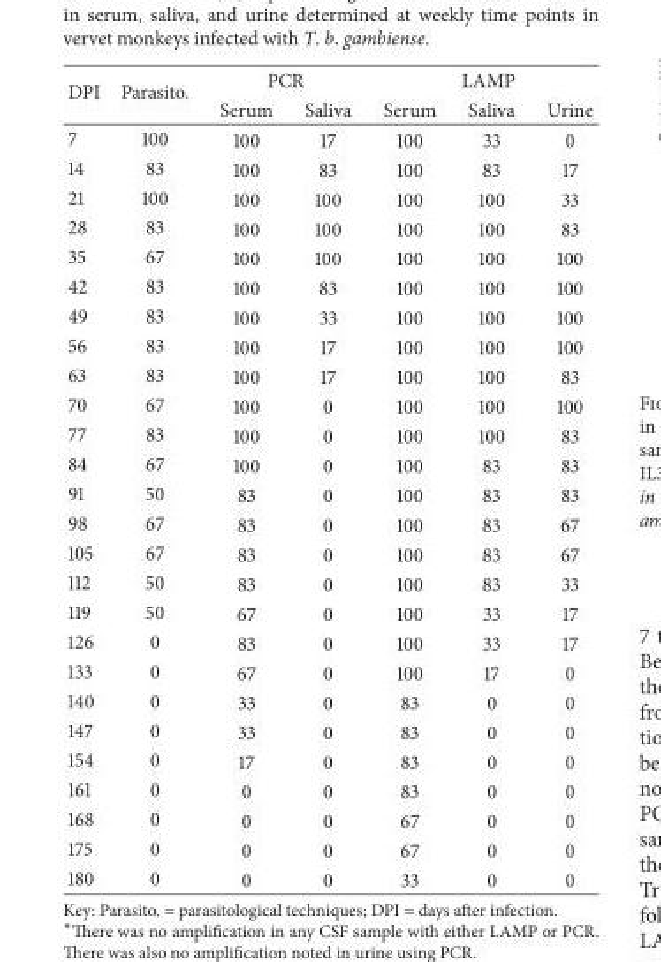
<table><thead><tr><td rowspan="2">DPI</td><td rowspan="2">Parasito.</td><td colspan="2">PCR</td><td colspan="3">LAMP</td></tr><tr><td>Serum</td><td>Saliva</td><td>Serum</td><td>Saliva</td><td>Urine</td></tr></thead><tbody><tr><td>7</td><td>100</td><td>100</td><td>17</td><td>100</td><td>33</td><td>0</td></tr><tr><td>14</td><td>83</td><td>100</td><td>83</td><td>100</td><td>83</td><td>17</td></tr><tr><td>21</td><td>100</td><td>100</td><td>100</td><td>100</td><td>100</td><td>33</td></tr><tr><td>28</td><td>83</td><td>100</td><td>100</td><td>100</td><td>100</td><td>83</td></tr><tr><td>35</td><td>67</td><td>100</td><td>100</td><td>100</td><td>100</td><td>100</td></tr><tr><td>42</td><td>83</td><td>100</td><td>83</td><td>100</td><td>100</td><td>100</td></tr><tr><td>49</td><td>83</td><td>100</td><td>33</td><td>100</td><td>100</td><td>100</td></tr><tr><td>56</td><td>83</td><td>100</td><td>17</td><td>100</td><td>100</td><td>100</td></tr><tr><td>63</td><td>83</td><td>100</td><td>17</td><td>100</td><td>100</td><td>83</td></tr><tr><td>70</td><td>67</td><td>100</td><td>0</td><td>100</td><td>100</td><td>100</td></tr><tr><td>77</td><td>83</td><td>100</td><td>0</td><td>100</td><td>100</td><td>83</td></tr><tr><td>84</td><td>67</td><td>100</td><td>0</td><td>100</td><td>83</td><td>83</td></tr><tr><td>91</td><td>50</td><td>83</td><td>0</td><td>100</td><td>83</td><td>83</td></tr><tr><td>98</td><td>67</td><td>83</td><td>0</td><td>100</td><td>83</td><td>67</td></tr><tr><td>105</td><td>67</td><td>83</td><td>0</td><td>100</td><td>83</td><td>67</td></tr><tr><td>112</td><td>50</td><td>83</td><td>0</td><td>100</td><td>83</td><td>33</td></tr><tr><td>119</td><td>50</td><td>67</td><td>0</td><td>100</td><td>33</td><td>17</td></tr><tr><td>126</td><td>0</td><td>83</td><td>0</td><td>100</td><td>33</td><td>17</td></tr><tr><td>133</td><td>0</td><td>67</td><td>0</td><td>100</td><td>17</td><td>0</td></tr><tr><td>140</td><td>0</td><td>33</td><td>0</td><td>83</td><td>0</td><td>0</td></tr><tr><td>147</td><td>0</td><td>33</td><td>0</td><td>83</td><td>0</td><td>0</td></tr><tr><td>154</td><td>0</td><td>17</td><td>0</td><td>83</td><td>0</td><td>0</td></tr><tr><td>161</td><td>0</td><td>0</td><td>0</td><td>83</td><td>0</td><td>0</td></tr><tr><td>168</td><td>0</td><td>0</td><td>0</td><td>67</td><td>0</td><td>0</td></tr><tr><td>175</td><td>0</td><td>0</td><td>0</td><td>67</td><td>0</td><td>0</td></tr><tr><td>180</td><td>0</td><td>0</td><td>0</td><td>33</td><td>0</td><td>0</td></tr></tbody></table>